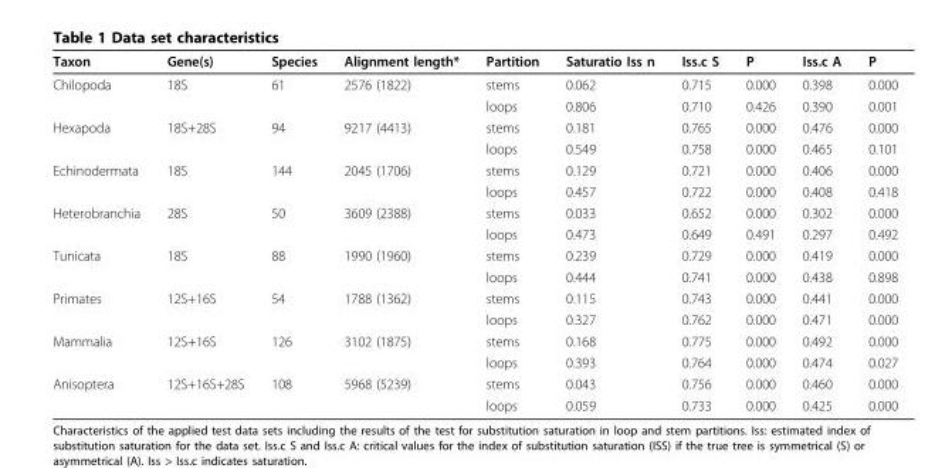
<table><thead><tr><td>Taxon</td><td>Gene(s)</td><td>Species</td><td>Alignment length*</td><td>Partition</td><td>Saturatio Iss n</td><td>Iss.c S</td><td>P</td><td>Iss.c A</td><td>P</td></tr></thead><tbody><tr><td rowspan="2">Chilopoda</td><td>18S</td><td>61</td><td>2576 (1822)</td><td>stems</td><td>0.062</td><td>0.715</td><td>0.000</td><td>0.398</td><td>0.000</td></tr><tr><td></td><td></td><td></td><td>loops</td><td>0.806</td><td>0.710</td><td>0.426</td><td>0.390</td><td>0.001</td></tr><tr><td rowspan="2">Hexapoda</td><td>18S+28S</td><td>94</td><td>9217 (4413)</td><td>stems</td><td>0.181</td><td>0.765</td><td>0.000</td><td>0.476</td><td>0.000</td></tr><tr><td></td><td></td><td></td><td>loops</td><td>0.549</td><td>0.758</td><td>0.000</td><td>0.465</td><td>0.101</td></tr><tr><td rowspan="2">Echinodermata</td><td>18S</td><td>144</td><td>2045 (1706)</td><td>stems</td><td>0.129</td><td>0.721</td><td>0.000</td><td>0.406</td><td>0.000</td></tr><tr><td></td><td></td><td></td><td>loops</td><td>0.457</td><td>0.722</td><td>0.000</td><td>0.408</td><td>0.418</td></tr><tr><td rowspan="2">Heterobranchia</td><td>28S</td><td>50</td><td>3609 (2388)</td><td>stems</td><td>0.033</td><td>0.652</td><td>0.000</td><td>0.302</td><td>0.000</td></tr><tr><td></td><td></td><td></td><td>loops</td><td>0.473</td><td>0.649</td><td>0.491</td><td>0.297</td><td>0.492</td></tr><tr><td rowspan="2">Tunicata</td><td>18S</td><td>88</td><td>1990 (1960)</td><td>stems</td><td>0.239</td><td>0.729</td><td>0.000</td><td>0.419</td><td>0.000</td></tr><tr><td></td><td></td><td></td><td>loops</td><td>0.444</td><td>0.741</td><td>0.000</td><td>0.438</td><td>0.898</td></tr><tr><td rowspan="2">Primates</td><td>12S+16S</td><td>54</td><td>1788 (1362)</td><td>stems</td><td>0.115</td><td>0.743</td><td>0.000</td><td>0.441</td><td>0.000</td></tr><tr><td></td><td></td><td></td><td>loops</td><td>0.327</td><td>0.762</td><td>0.000</td><td>0.471</td><td>0.000</td></tr><tr><td rowspan="2">Mammalia</td><td>12S+16S</td><td>126</td><td>3102 (1875)</td><td>stems</td><td>0.168</td><td>0.775</td><td>0.000</td><td>0.492</td><td>0.000</td></tr><tr><td></td><td></td><td></td><td>loops</td><td>0.393</td><td>0.764</td><td>0.000</td><td>0.474</td><td>0.027</td></tr><tr><td rowspan="2">Anisoptera</td><td>12S+16S+28S</td><td>108</td><td>5968 (5239)</td><td>stems</td><td>0.043</td><td>0.756</td><td>0.000</td><td>0.460</td><td>0.000</td></tr><tr><td></td><td></td><td></td><td>loops</td><td>0.059</td><td>0.733</td><td>0.000</td><td>0.425</td><td>0.000</td></tr></tbody></table>